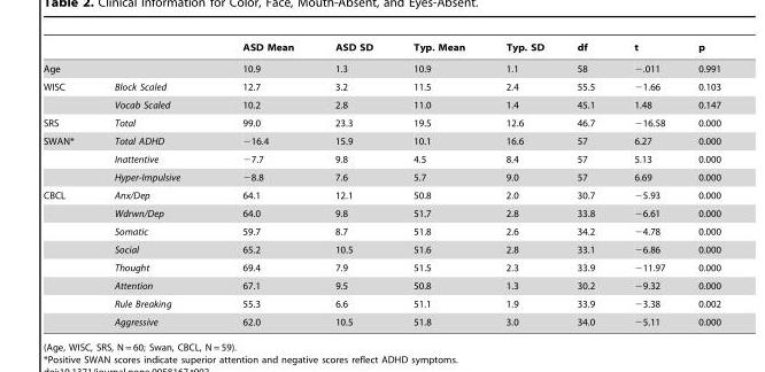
<table><thead><tr><td></td><td></td><td>ASD Mean</td><td>ASD SD</td><td>Typ. Mean</td><td>Typ. SD</td><td>df</td><td>t</td><td>p</td></tr></thead><tbody><tr><td>Age</td><td></td><td>10.9</td><td>1.3</td><td>10.9</td><td>1.1</td><td>58</td><td>−.011</td><td>0.991</td></tr><tr><td rowspan="2">WISC</td><td>Block Scaled</td><td>12.7</td><td>3.2</td><td>11.5</td><td>2.4</td><td>55.5</td><td>−1.66</td><td>0.103</td></tr><tr><td>Vocab Scaled</td><td>10.2</td><td>2.8</td><td>11.0</td><td>1.4</td><td>45.1</td><td>1.48</td><td>0.147</td></tr><tr><td>SRS</td><td>Total</td><td>99.0</td><td>23.3</td><td>19.5</td><td>12.6</td><td>46.7</td><td>−16.58</td><td>0.000</td></tr><tr><td rowspan="3">SWAN*</td><td>Total ADHD</td><td>−16.4</td><td>15.9</td><td>10.1</td><td>16.6</td><td>57</td><td>6.27</td><td>0.000</td></tr><tr><td>Inattentive</td><td>−7.7</td><td>9.8</td><td>4.5</td><td>8.4</td><td>57</td><td>5.13</td><td>0.000</td></tr><tr><td>Hyper-Impulsive</td><td>−8.8</td><td>7.6</td><td>5.7</td><td>9.0</td><td>57</td><td>6.69</td><td>0.000</td></tr><tr><td rowspan="8">CBCL</td><td>Anx/Dep</td><td>64.1</td><td>12.1</td><td>50.8</td><td>2.0</td><td>30.7</td><td>−5.93</td><td>0.000</td></tr><tr><td>Wdrwn/Dep</td><td>64.0</td><td>9.8</td><td>51.7</td><td>2.8</td><td>33.8</td><td>−6.61</td><td>0.000</td></tr><tr><td>Somatic</td><td>59.7</td><td>8.7</td><td>51.8</td><td>2.6</td><td>34.2</td><td>−4.78</td><td>0.000</td></tr><tr><td>Social</td><td>65.2</td><td>10.5</td><td>51.6</td><td>2.8</td><td>33.1</td><td>−6.86</td><td>0.000</td></tr><tr><td>Thought</td><td>69.4</td><td>7.9</td><td>51.5</td><td>2.3</td><td>33.9</td><td>−11.97</td><td>0.000</td></tr><tr><td>Attention</td><td>67.1</td><td>9.5</td><td>50.8</td><td>1.3</td><td>30.2</td><td>−9.32</td><td>0.000</td></tr><tr><td>Rule Breaking</td><td>55.3</td><td>6.6</td><td>51.1</td><td>1.9</td><td>33.9</td><td>−3.38</td><td>0.002</td></tr><tr><td>Aggressive</td><td>62.0</td><td>10.5</td><td>51.8</td><td>3.0</td><td>34.0</td><td>−5.11</td><td>0.000</td></tr></tbody></table>